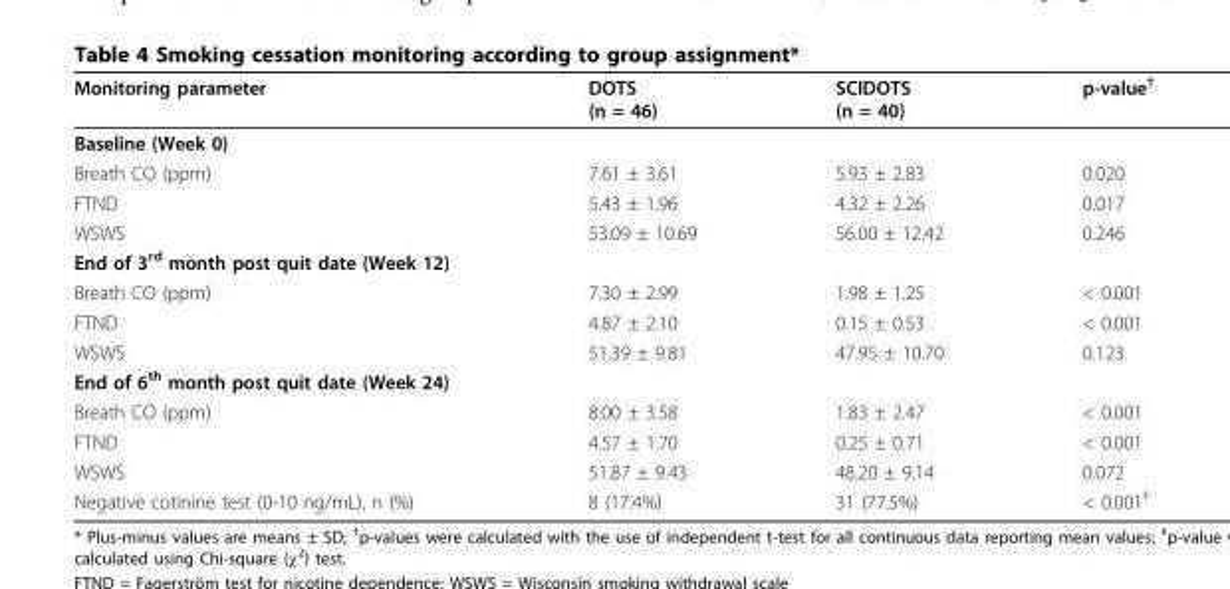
<table><thead><tr><td>Monitoring parameter</td><td>DOTS (n = 46)</td><td>SCIDOTS (n = 40)</td><td>p-value<sup>†</sup></td></tr></thead><tbody><tr><td colspan="4">Baseline (Week 0)</td></tr><tr><td>Breath CO (ppm)</td><td>7.61 ± 3.61</td><td>5.93 ± 2.83</td><td>0.020</td></tr><tr><td>FTND</td><td>5.43 ± 1.96</td><td>4.32 ± 2.26</td><td>0.017</td></tr><tr><td>WSWS</td><td>53.09 ± 10.69</td><td>56.00 ± 12.42</td><td>0.246</td></tr><tr><td colspan="4">End of 3<sup>rd</sup> month post quit date (Week 12)</td></tr><tr><td>Breath CO (ppm)</td><td>7.30 ± 2.99</td><td>1.98 ± 1.25</td><td>&lt; 0.001</td></tr><tr><td>FTND</td><td>4.87 ± 2.10</td><td>0.15 ± 0.53</td><td>&lt; 0.001</td></tr><tr><td>WSWS</td><td>51.39 ± 9.81</td><td>47.95 ± 10.70</td><td>0.123</td></tr><tr><td colspan="4">End of 6<sup>th</sup> month post quit date (Week 24)</td></tr><tr><td>Breath CO (ppm)</td><td>8.00 ± 3.58</td><td>1.83 ± 2.47</td><td>&lt; 0.001</td></tr><tr><td>FTND</td><td>4.57 ± 1.70</td><td>0.25 ± 0.71</td><td>&lt; 0.001</td></tr><tr><td>WSWS</td><td>51.87 ± 9.43</td><td>48.20 ± 9.14</td><td>0.072</td></tr><tr><td>Negative cotinine test (0-10 ng/mL), n (%)</td><td>8 (17.4%)</td><td>31 (77.5%)</td><td>&lt; 0.001<sup>‡</sup></td></tr></tbody></table>